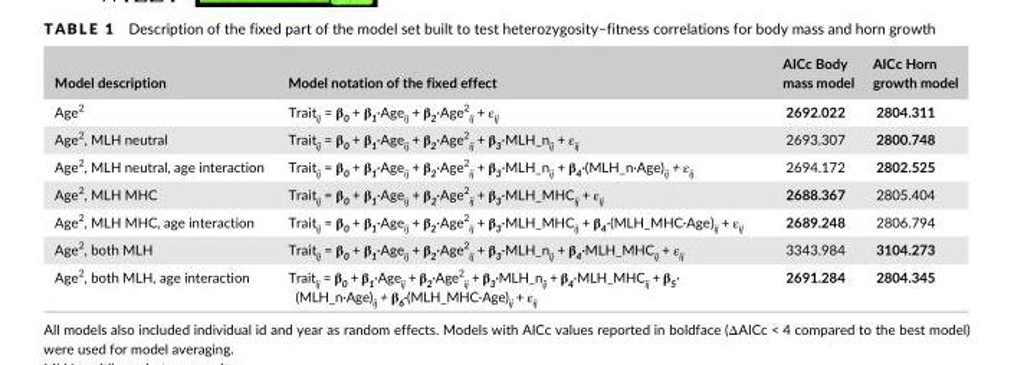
<table><thead><tr><td>Model description</td><td>Model notation of the fixed effect</td><td>AICc Body mass model</td><td>AICc Horn growth model</td></tr></thead><tbody><tr><td>Age<sup>2</sup></td><td>Traitij = β0 + β1·Ageij + β2·Age2 ij + εij</td><td>2692.022</td><td>2804.311</td></tr><tr><td>Age<sup>2</sup>, MLH neutral</td><td>Traitij = β0 + β1·Ageij + β2·Age2 ij + β3·MLH_nij + εij</td><td>2693.307</td><td>2800.748</td></tr><tr><td>Age<sup>2</sup>, MLH neutral, age interaction</td><td>Traitij = β0 + β1·Ageij + β2·Age2 ij + β3·MLH_nij + β4·(MLH_n·Age)ij + εij</td><td>2694.172</td><td>2802.525</td></tr><tr><td>Age<sup>2</sup>, MLH MHC</td><td>Traitij = β0 + β1·Ageij + β2·Age2 ij + β3·MLH_MHCij + εij</td><td>2688.367</td><td>2805.404</td></tr><tr><td>Age<sup>2</sup>, MLH MHC, age interaction</td><td>Traitij = β0 + β1·Ageij + β2·Age2 ij + β3·MLH_MHCij + β4·(MLH_MHC·Age)ij + εij</td><td>2689.248</td><td>2806.794</td></tr><tr><td>Age<sup>2</sup>, both MLH</td><td>Traitij = β0 + β1·Ageij + β2·Age2 ij + β3·MLH_nij + β4·MLH_MHCij + εij</td><td>3343.984</td><td>3104.273</td></tr><tr><td>Age<sup>2</sup>, both MLH, age interaction</td><td>Traitij = β0 + β1·Ageij + β2·Age2 ij + β3·MLH_nij + β4·MLH_MHCij + β5· (MLH_n·Age)ij + β6·(MLH_MHC·Age)ij + εij</td><td>2691.284</td><td>2804.345</td></tr></tbody></table>